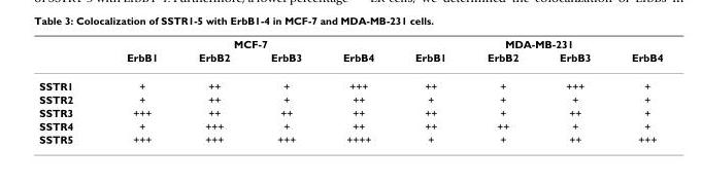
<table><thead><tr><td rowspan="2"></td><td colspan="4">MCF-7</td><td colspan="4">MDA-MB-231</td></tr><tr><td>ErbB1</td><td>ErbB2</td><td>ErbB3</td><td>ErbB4</td><td>ErbB1</td><td>ErbB2</td><td>ErbB3</td><td>ErbB4</td></tr></thead><tbody><tr><td>SSTR1</td><td>+</td><td>++</td><td>+</td><td>+++</td><td>++</td><td>+</td><td>+++</td><td>+</td></tr><tr><td>SSTR2</td><td>+</td><td>++</td><td>+</td><td>++</td><td>+</td><td>+</td><td>+</td><td>+</td></tr><tr><td>SSTR3</td><td>+++</td><td>++</td><td>++</td><td>++</td><td>++</td><td>+</td><td>++</td><td>+</td></tr><tr><td>SSTR4</td><td>+</td><td>+++</td><td>+</td><td>++</td><td>++</td><td>++</td><td>+</td><td>+</td></tr><tr><td>SSTR5</td><td>+++</td><td>+++</td><td>+++</td><td>++++</td><td>+</td><td>+</td><td>++</td><td>+++</td></tr></tbody></table>